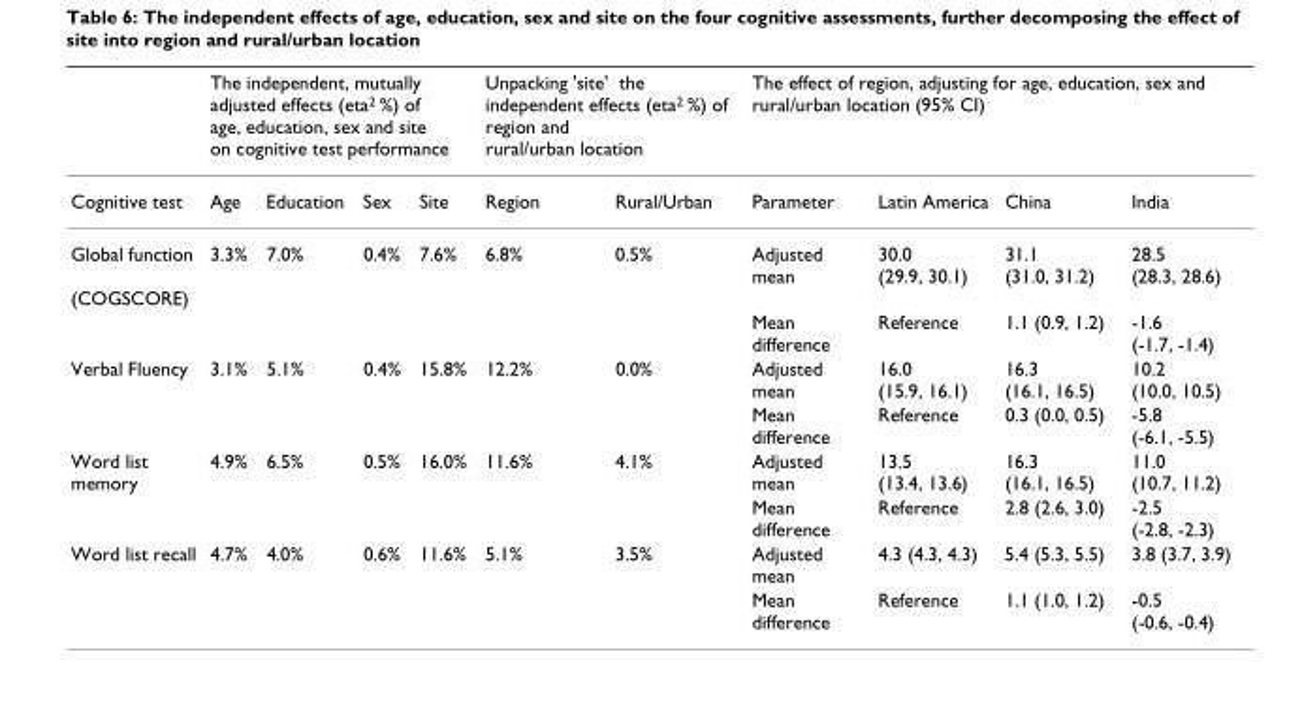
<table><thead><tr><td rowspan="2">Cognitive test</td><td colspan="4">The independent, mutually adjusted effects (eta<sup>2</sup> %) of age, education, sex and site on cognitive test performance</td><td colspan="2">Unpacking &#x27;site&#x27; the independent effects (eta2 %) of region and rural/urban location</td><td colspan="4">The effect of region, adjusting for age, education, sex and rural/urban location (95% CI)</td></tr><tr><td>Age</td><td>Education</td><td>Sex</td><td>Site</td><td>Region</td><td>Rural/Urban</td><td>Parameter</td><td>Latin America</td><td>China</td><td>India</td></tr></thead><tbody><tr><td rowspan="2">Global function (COGSCORE)</td><td>3.3%</td><td>7.0%</td><td>0.4%</td><td>7.6%</td><td>6.8%</td><td>0.5%</td><td>Adjusted mean</td><td>30.0 (29.9, 30.1)</td><td>31.1 (31.0, 31.2)</td><td>28.5 (28.3, 28.6)</td></tr><tr><td></td><td></td><td></td><td></td><td></td><td></td><td>Mean difference</td><td>Reference</td><td>1.1 (0.9, 1.2)</td><td>-1.6 (-1.7, -1.4)</td></tr><tr><td rowspan="2">Verbal Fluency</td><td>3.1%</td><td>5.1%</td><td>0.4%</td><td>15.8%</td><td>12.2%</td><td>0.0%</td><td>Adjusted mean</td><td>16.0 (15.9, 16.1)</td><td>16.3 (16.1, 16.5)</td><td>10.2 (10.0, 10.5)</td></tr><tr><td></td><td></td><td></td><td></td><td></td><td></td><td>Mean difference</td><td>Reference</td><td>0.3 (0.0, 0.5)</td><td>-5.8 (-6.1, -5.5)</td></tr><tr><td rowspan="2">Word list memory</td><td>4.9%</td><td>6.5%</td><td>0.5%</td><td>16.0%</td><td>11.6%</td><td>4.1%</td><td>Adjusted mean</td><td>13.5 (13.4, 13.6)</td><td>16.3 (16.1, 16.5)</td><td>11.0 (10.7, 11.2)</td></tr><tr><td></td><td></td><td></td><td></td><td></td><td></td><td>Mean difference</td><td>Reference</td><td>2.8 (2.6, 3.0)</td><td>-2.5 (-2.8, -2.3)</td></tr><tr><td rowspan="2">Word list recall</td><td>4.7%</td><td>4.0%</td><td>0.6%</td><td>11.6%</td><td>5.1%</td><td>3.5%</td><td>Adjusted mean</td><td>4.3 (4.3, 4.3)</td><td>5.4 (5.3, 5.5)</td><td>3.8 (3.7, 3.9)</td></tr><tr><td></td><td></td><td></td><td></td><td></td><td></td><td>Mean difference</td><td>Reference</td><td>1.1 (1.0, 1.2)</td><td>-0.5 (-0.6, -0.4)</td></tr></tbody></table>